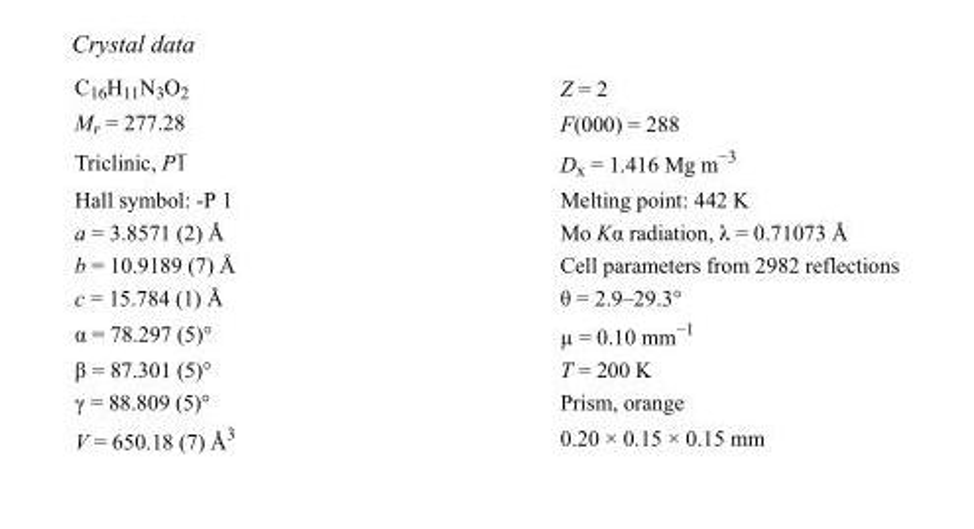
<table><tbody><tr><td>C<sub>16</sub>H<sub>11</sub>N<sub>3</sub>O<sub>2</sub></td><td>Z = 2</td></tr><tr><td>M<sub>r</sub> = 277.28</td><td>F(000) = 288</td></tr><tr><td>Triclinic, P1</td><td>D<sub>x</sub> = 1.416 Mg m<sup>−3</sup></td></tr><tr><td>Hall symbol: -P 1</td><td>Melting point: 442 K</td></tr><tr><td>a = 3.8571 (2) Å</td><td>Mo Kα radiation, λ = 0.71073 Å</td></tr><tr><td>b = 10.9189 (7) Å</td><td>Cell parameters from 2982 reflections</td></tr><tr><td>c = 15.784 (1) Å</td><td>θ = 2.9–29.3°</td></tr><tr><td>α = 78.297 (5)°</td><td>µ = 0.10 mm<sup>−1</sup></td></tr><tr><td>β = 87.301 (5)°</td><td>T = 200 K</td></tr><tr><td>γ = 88.809 (5)°</td><td>Prism, orange</td></tr><tr><td>V = 650.18 (7) Å<sup>3</sup></td><td>0.20 × 0.15 × 0.15 mm</td></tr></tbody></table>